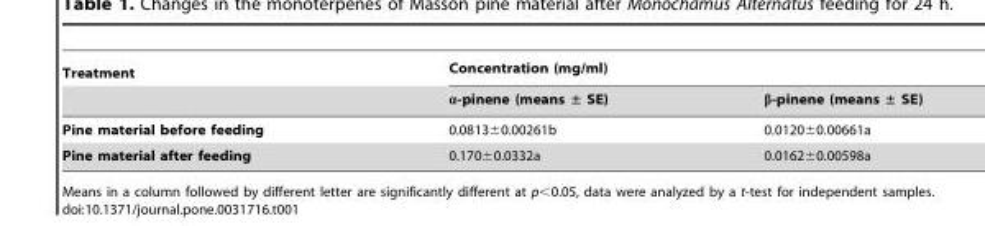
<table><thead><tr><td rowspan="2">Treatment</td><td colspan="2">Concentration (mg/ml)</td></tr><tr><td>α-pinene (means ± SE)</td><td>β-pinene (means ± SE)</td></tr></thead><tbody><tr><td>Pine material before feeding</td><td>0.0813±0.00261b</td><td>0.0120±0.00661a</td></tr><tr><td>Pine material after feeding</td><td>0.170±0.0332a</td><td>0.0162±0.00598a</td></tr></tbody></table>